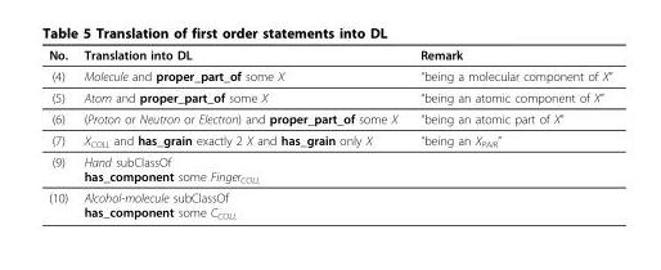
<table><thead><tr><td>No.</td><td>Translation into DL</td><td>Remark</td></tr></thead><tbody><tr><td>(4)</td><td>Molecule and proper_part_of some X</td><td>“being a molecular component of X”</td></tr><tr><td>(5)</td><td>Atom and proper_part_of some X</td><td>“being an atomic component of X”</td></tr><tr><td>(6)</td><td>(Proton or Neutron or Electron) and proper_part_of some X</td><td>“being an atomic part of X”</td></tr><tr><td>(7)</td><td>X<sub>COLL</sub> and has_grain exactly 2 X and has_grain only X</td><td>“being an X<sub>PAIR</sub>”</td></tr><tr><td>(9)</td><td>Hand subClassOf has_component some Finger<sub>COLL</sub></td><td></td></tr><tr><td>(10)</td><td>Alcohol-molecule subClassOf has_component some C<sub>COLL</sub></td><td></td></tr></tbody></table>